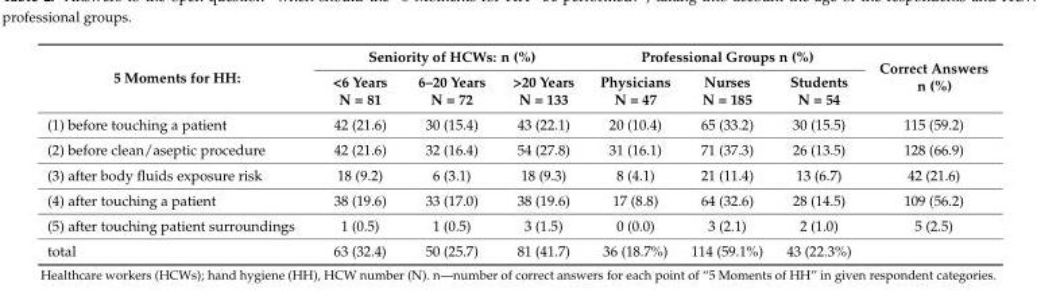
<table><thead><tr><td rowspan="2">5 Moments for HH:</td><td colspan="3">Seniority of HCWs: n (%)</td><td colspan="3">Professional Groups n (%)</td><td rowspan="2">Correct Answers n (%)</td></tr><tr><td>&lt;6 Years N = 81</td><td>6–20 Years N = 72</td><td>&gt;20 Years N = 133</td><td>Physicians N = 47</td><td>Nurses N = 185</td><td>Students N = 54</td></tr></thead><tbody><tr><td>(1) before touching a patient</td><td>42 (21.6)</td><td>30 (15.4)</td><td>43 (22.1)</td><td>20 (10.4)</td><td>65 (33.2)</td><td>30 (15.5)</td><td>115 (59.2)</td></tr><tr><td>(2) before clean/aseptic procedure</td><td>42 (21.6)</td><td>32 (16.4)</td><td>54 (27.8)</td><td>31 (16.1)</td><td>71 (37.3)</td><td>26 (13.5)</td><td>128 (66.9)</td></tr><tr><td>(3) after body fluids exposure risk</td><td>18 (9.2)</td><td>6 (3.1)</td><td>18 (9.3)</td><td>8 (4.1)</td><td>21 (11.4)</td><td>13 (6.7)</td><td>42 (21.6)</td></tr><tr><td>(4) after touching a patient</td><td>38 (19.6)</td><td>33 (17.0)</td><td>38 (19.6)</td><td>17 (8.8)</td><td>64 (32.6)</td><td>28 (14.5)</td><td>109 (56.2)</td></tr><tr><td>(5) after touching patient surroundings</td><td>1 (0.5)</td><td>1 (0.5)</td><td>3 (1.5)</td><td>0 (0.0)</td><td>3 (2.1)</td><td>2 (1.0)</td><td>5 (2.5)</td></tr><tr><td>total</td><td>63 (32.4)</td><td>50 (25.7)</td><td>81 (41.7)</td><td>36 (18.7%)</td><td>114 (59.1%)</td><td>43 (22.3%)</td><td></td></tr></tbody></table>